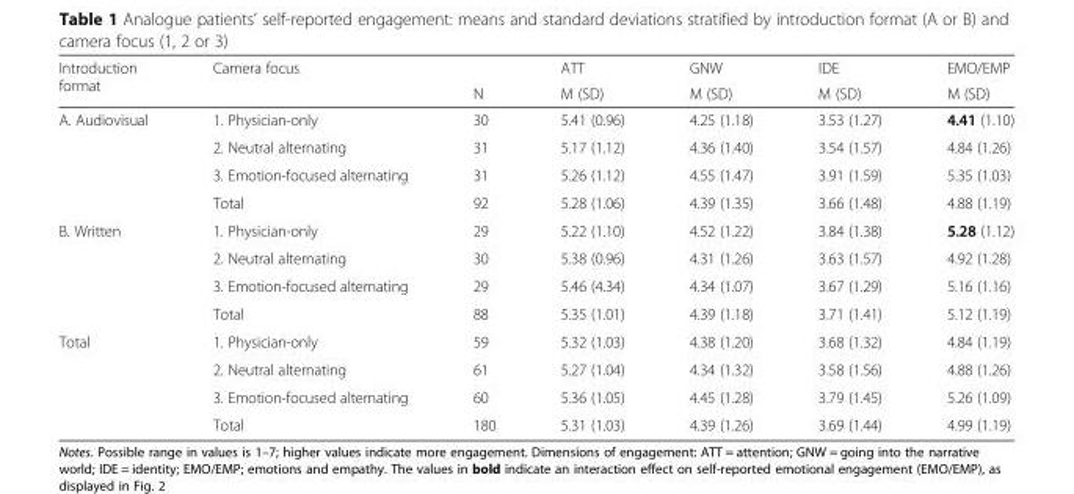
<table><thead><tr><td rowspan="2">Introduction format</td><td rowspan="2">Camera focus</td><td rowspan="2">N</td><td rowspan="2">ATT M (SD)</td><td rowspan="2">GNW M (SD)</td><td rowspan="2">IDE M (SD)</td><td rowspan="2">EMO/EMP M (SD)</td></tr><tr></tr></thead><tbody><tr><td rowspan="4">A. Audiovisual</td><td>1. Physician-only</td><td>30</td><td>5.41 (0.96)</td><td>4.25 (1.18)</td><td>3.53 (1.27)</td><td>4.41 (1.10)</td></tr><tr><td>2. Neutral alternating</td><td>31</td><td>5.17 (1.12)</td><td>4.36 (1.40)</td><td>3.54 (1.57)</td><td>4.84 (1.26)</td></tr><tr><td>3. Emotion-focused alternating</td><td>31</td><td>5.26 (1.12)</td><td>4.55 (1.47)</td><td>3.91 (1.59)</td><td>5.35 (1.03)</td></tr><tr><td>Total</td><td>92</td><td>5.28 (1.06)</td><td>4.39 (1.35)</td><td>3.66 (1.48)</td><td>4.88 (1.19)</td></tr><tr><td rowspan="4">B. Written</td><td>1. Physician-only</td><td>29</td><td>5.22 (1.10)</td><td>4.52 (1.22)</td><td>3.84 (1.38)</td><td>5.28 (1.12)</td></tr><tr><td>2. Neutral alternating</td><td>30</td><td>5.38 (0.96)</td><td>4.31 (1.26)</td><td>3.63 (1.57)</td><td>4.92 (1.28)</td></tr><tr><td>3. Emotion-focused alternating</td><td>29</td><td>5.46 (4.34)</td><td>4.34 (1.07)</td><td>3.67 (1.29)</td><td>5.16 (1.16)</td></tr><tr><td>Total</td><td>88</td><td>5.35 (1.01)</td><td>4.39 (1.18)</td><td>3.71 (1.41)</td><td>5.12 (1.19)</td></tr><tr><td rowspan="4">Total</td><td>1. Physician-only</td><td>59</td><td>5.32 (1.03)</td><td>4.38 (1.20)</td><td>3.68 (1.32)</td><td>4.84 (1.19)</td></tr><tr><td>2. Neutral alternating</td><td>61</td><td>5.27 (1.04)</td><td>4.34 (1.32)</td><td>3.58 (1.56)</td><td>4.88 (1.26)</td></tr><tr><td>3. Emotion-focused alternating</td><td>60</td><td>5.36 (1.05)</td><td>4.45 (1.28)</td><td>3.79 (1.45)</td><td>5.26 (1.09)</td></tr><tr><td>Total</td><td>180</td><td>5.31 (1.03)</td><td>4.39 (1.26)</td><td>3.69 (1.44)</td><td>4.99 (1.19)</td></tr></tbody></table>